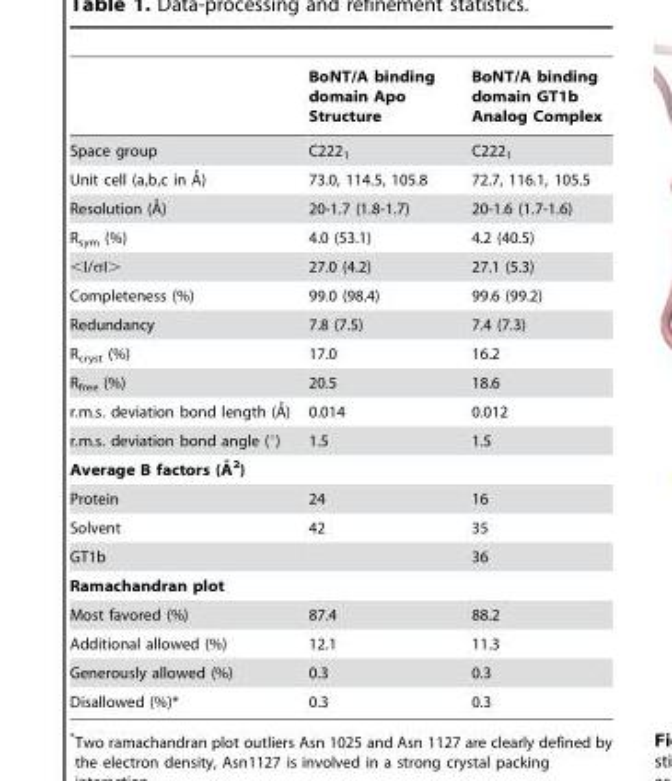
<table><thead><tr><td></td><td>BoNT/A binding domain Apo Structure</td><td>BoNT/A binding domain GT1b Analog Complex</td></tr></thead><tbody><tr><td>Space group</td><td>C222<sub>1</sub></td><td>C222<sub>1</sub></td></tr><tr><td>Unit cell (a,b,c in A˚)</td><td>73.0, 114.5, 105.8</td><td>72.7, 116.1, 105.5</td></tr><tr><td>Resolution (A˚)</td><td>20-1.7 (1.8-1.7)</td><td>20-1.6 (1.7-1.6)</td></tr><tr><td>R<sub>sym</sub> (%)</td><td>4.0 (53.1)</td><td>4.2 (40.5)</td></tr><tr><td>&lt;I/σI&gt;</td><td>27.0 (4.2)</td><td>27.1 (5.3)</td></tr><tr><td>Completeness (%)</td><td>99.0 (98.4)</td><td>99.6 (99.2)</td></tr><tr><td>Redundancy</td><td>7.8 (7.5)</td><td>7.4 (7.3)</td></tr><tr><td>R<sub>cryst</sub> (%)</td><td>17.0</td><td>16.2</td></tr><tr><td>R<sub>free</sub> (%)</td><td>20.5</td><td>18.6</td></tr><tr><td>r.m.s. deviation bond length (A˚)</td><td>0.014</td><td>0.012</td></tr><tr><td>r.m.s. deviation bond angle (°)</td><td>1.5</td><td>1.5</td></tr><tr><td colspan="3">Average B factors (A˚ 2)</td></tr><tr><td>Protein</td><td>24</td><td>16</td></tr><tr><td>Solvent</td><td>42</td><td>35</td></tr><tr><td>GT1b</td><td></td><td>36</td></tr><tr><td colspan="3">Ramachandran plot</td></tr><tr><td>Most favored (%)</td><td>87.4</td><td>88.2</td></tr><tr><td>Additional allowed (%)</td><td>12.1</td><td>11.3</td></tr><tr><td>Generously allowed (%)</td><td>0.3</td><td>0.3</td></tr><tr><td>Disallowed (%)*</td><td>0.3</td><td>0.3</td></tr></tbody></table>